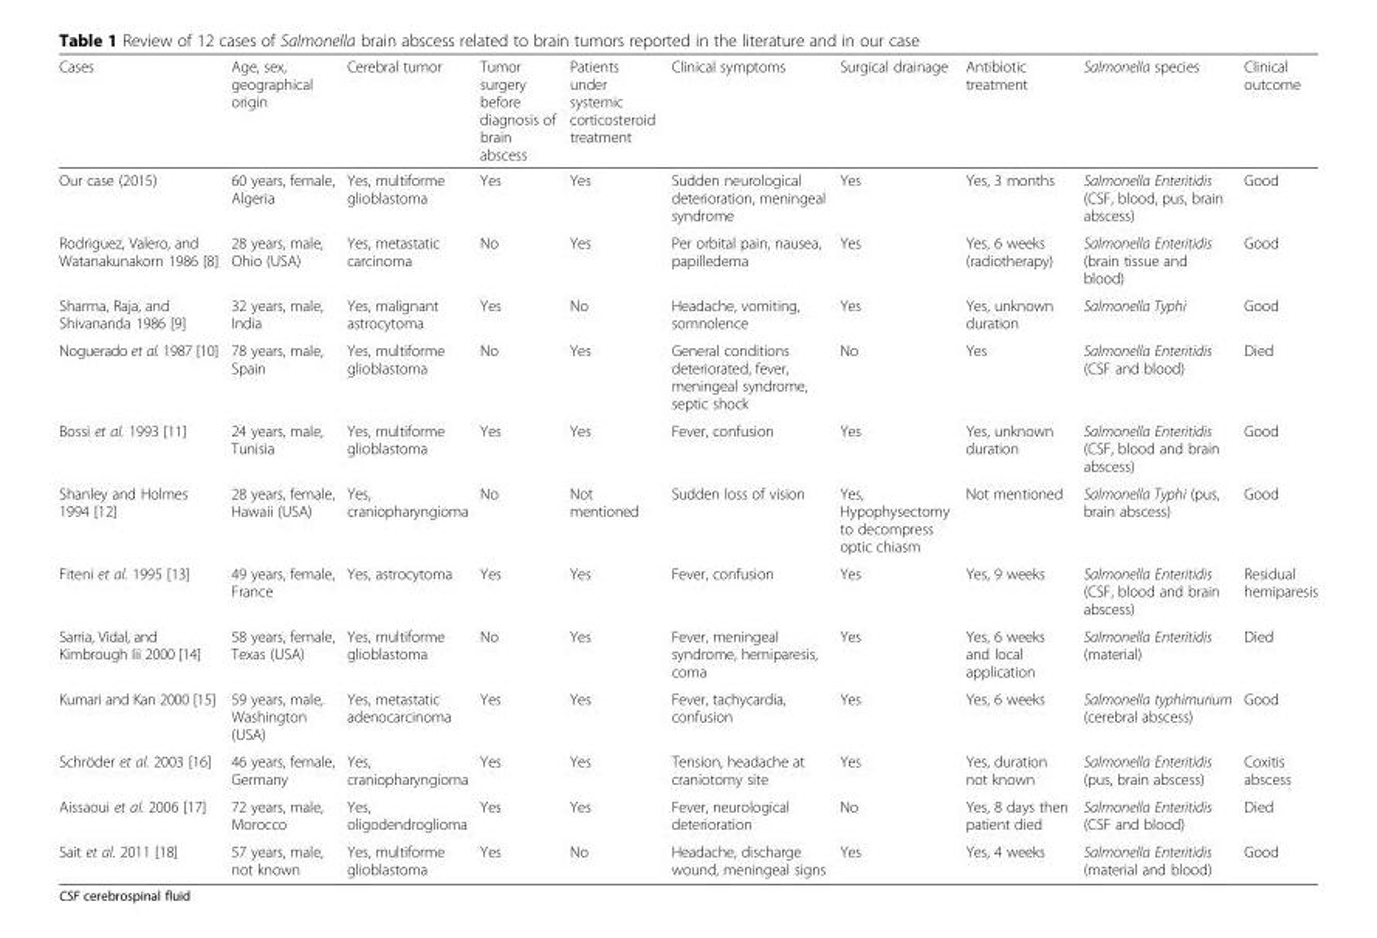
<table><thead><tr><td>Cases</td><td>Age, sex, geographical origin</td><td>Cerebral tumor</td><td>Tumor surgery before diagnosis of brain abscess</td><td>Patients under systemic corticosteroid treatment</td><td>Clinical symptoms</td><td>Surgical drainage</td><td>Antibiotic treatment</td><td>Salmonella species</td><td>Clinical outcome</td></tr></thead><tbody><tr><td>Our case (2015)</td><td>60 years, female, Algeria</td><td>Yes, multiforme glioblastoma</td><td>Yes</td><td>Yes</td><td>Sudden neurological deterioration, meningeal syndrome</td><td>Yes</td><td>Yes, 3 months</td><td>Salmonella Enteritidis (CSF, blood, pus, brain abscess)</td><td>Good</td></tr><tr><td>Rodriguez, Valero, and Watanakunakorn 1986 [8]</td><td>28 years, male, Ohio (USA)</td><td>Yes, metastatic carcinoma</td><td>No</td><td>Yes</td><td>Per orbital pain, nausea, papilledema</td><td>Yes</td><td>Yes, 6 weeks (radiotherapy)</td><td>Salmonella Enteritidis (brain tissue and blood)</td><td>Good</td></tr><tr><td>Sharma, Raja, and Shivananda 1986 [9]</td><td>32 years, male, India</td><td>Yes, malignant astrocytoma</td><td>Yes</td><td>No</td><td>Headache, vomiting, somnolence</td><td>Yes</td><td>Yes, unknown duration</td><td>Salmonella Typhi</td><td>Good</td></tr><tr><td>Noguerado et al. 1987 [10]</td><td>78 years, male, Spain</td><td>Yes, multiforme glioblastoma</td><td>No</td><td>Yes</td><td>General conditions deteriorated, fever, meningeal syndrome, septic shock</td><td>No</td><td>Yes</td><td>Salmonella Enteritidis (CSF and blood)</td><td>Died</td></tr><tr><td>Bossi et al. 1993 [11]</td><td>24 years, male, Tunisia</td><td>Yes, multiforme glioblastoma</td><td>Yes</td><td>Yes</td><td>Fever, confusion</td><td>Yes</td><td>Yes, unknown duration</td><td>Salmonella Enteritidis (CSF, blood and brain abscess)</td><td>Good</td></tr><tr><td>Shanley and Holmes 1994 [12]</td><td>28 years, female, Hawaii (USA)</td><td>Yes, craniopharyngioma</td><td>No</td><td>Not mentioned</td><td>Sudden loss of vision</td><td>Yes, Hypophysectomy to decompress optic chiasm</td><td>Not mentioned</td><td>Salmonella Typhi (pus, brain abscess)</td><td>Good</td></tr><tr><td>Fiteni et al. 1995 [13]</td><td>49 years, female, France</td><td>Yes, astrocytoma</td><td>Yes</td><td>Yes</td><td>Fever, confusion</td><td>Yes</td><td>Yes, 9 weeks</td><td>Salmonella Enteritidis (CSF, blood and brain abscess)</td><td>Residual hemiparesis</td></tr><tr><td>Sarria, Vidal, and Kimbrough Iii 2000 [14]</td><td>58 years, female, Texas (USA)</td><td>Yes, multiforme glioblastoma</td><td>No</td><td>Yes</td><td>Fever, meningeal syndrome, hemiparesis, coma</td><td>Yes</td><td>Yes, 6 weeks and local application</td><td>Salmonella Enteritidis (material)</td><td>Died</td></tr><tr><td>Kumari and Kan 2000 [15]</td><td>59 years, male, Washington (USA)</td><td>Yes, metastatic adenocarcinoma</td><td>Yes</td><td>Yes</td><td>Fever, tachycardia, confusion</td><td>Yes</td><td>Yes, 6 weeks</td><td>Salmonella typhimurium (cerebral abscess)</td><td>Good</td></tr><tr><td>Schröder et al. 2003 [16]</td><td>46 years, female, Germany</td><td>Yes, craniopharyngioma</td><td>Yes</td><td>Yes</td><td>Tension, headache at craniotomy site</td><td>Yes</td><td>Yes, duration not known</td><td>Salmonella Enteritidis (pus, brain abscess)</td><td>Coxitis abscess</td></tr><tr><td>Aissaoui et al. 2006 [17]</td><td>72 years, male, Morocco</td><td>Yes, oligodendroglioma</td><td>Yes</td><td>Yes</td><td>Fever, neurological deterioration</td><td>No</td><td>Yes, 8 days then patient died</td><td>Salmonella Enteritidis (CSF and blood)</td><td>Died</td></tr><tr><td>Sait et al. 2011 [18]</td><td>57 years, male, not known</td><td>Yes, multiforme glioblastoma</td><td>Yes</td><td>No</td><td>Headache, discharge wound, meningeal signs</td><td>Yes</td><td>Yes, 4 weeks</td><td>Salmonella Enteritidis (material and blood)</td><td>Good</td></tr></tbody></table>